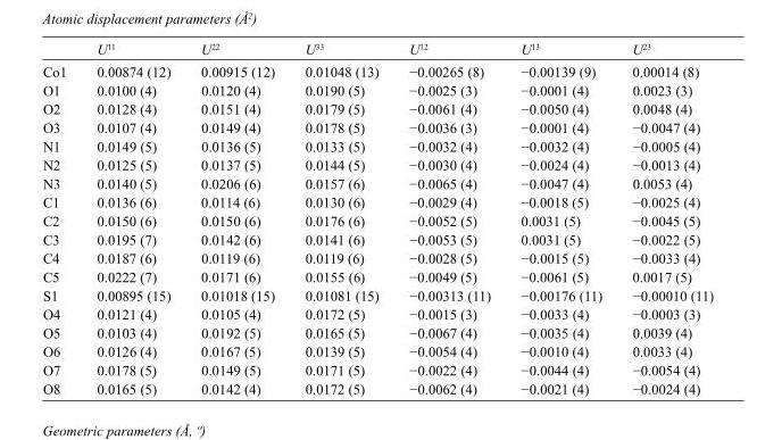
<table><thead><tr><td></td><td>U<sup>11</sup></td><td>U<sup>22</sup></td><td>U<sup>33</sup></td><td>U<sup>12</sup></td><td>U<sup>13</sup></td><td>U<sup>23</sup></td></tr></thead><tbody><tr><td>Co1</td><td>0.00874 (12)</td><td>0.00915 (12)</td><td>0.01048 (13)</td><td>−0.00265 (8)</td><td>−0.00139 (9)</td><td>0.00014 (8)</td></tr><tr><td>O1</td><td>0.0100 (4)</td><td>0.0120 (4)</td><td>0.0190 (5)</td><td>−0.0025 (3)</td><td>−0.0001 (4)</td><td>0.0023 (3)</td></tr><tr><td>O2</td><td>0.0128 (4)</td><td>0.0151 (4)</td><td>0.0179 (5)</td><td>−0.0061 (4)</td><td>−0.0050 (4)</td><td>0.0048 (4)</td></tr><tr><td>O3</td><td>0.0107 (4)</td><td>0.0149 (4)</td><td>0.0178 (5)</td><td>−0.0036 (3)</td><td>−0.0001 (4)</td><td>−0.0047 (4)</td></tr><tr><td>N1</td><td>0.0149 (5)</td><td>0.0136 (5)</td><td>0.0133 (5)</td><td>−0.0032 (4)</td><td>−0.0032 (4)</td><td>−0.0005 (4)</td></tr><tr><td>N2</td><td>0.0125 (5)</td><td>0.0137 (5)</td><td>0.0144 (5)</td><td>−0.0030 (4)</td><td>−0.0024 (4)</td><td>−0.0013 (4)</td></tr><tr><td>N3</td><td>0.0140 (5)</td><td>0.0206 (6)</td><td>0.0157 (6)</td><td>−0.0065 (4)</td><td>−0.0047 (4)</td><td>0.0053 (4)</td></tr><tr><td>C1</td><td>0.0136 (6)</td><td>0.0114 (6)</td><td>0.0130 (6)</td><td>−0.0029 (4)</td><td>−0.0018 (5)</td><td>−0.0025 (4)</td></tr><tr><td>C2</td><td>0.0150 (6)</td><td>0.0150 (6)</td><td>0.0176 (6)</td><td>−0.0052 (5)</td><td>0.0031 (5)</td><td>−0.0045 (5)</td></tr><tr><td>C3</td><td>0.0195 (7)</td><td>0.0142 (6)</td><td>0.0141 (6)</td><td>−0.0053 (5)</td><td>0.0031 (5)</td><td>−0.0022 (5)</td></tr><tr><td>C4</td><td>0.0187 (6)</td><td>0.0119 (6)</td><td>0.0119 (6)</td><td>−0.0028 (5)</td><td>−0.0015 (5)</td><td>−0.0033 (4)</td></tr><tr><td>C5</td><td>0.0222 (7)</td><td>0.0171 (6)</td><td>0.0155 (6)</td><td>−0.0049 (5)</td><td>−0.0061 (5)</td><td>0.0017 (5)</td></tr><tr><td>S1</td><td>0.00895 (15)</td><td>0.01018 (15)</td><td>0.01081 (15)</td><td>−0.00313 (11)</td><td>−0.00176 (11)</td><td>−0.00010 (11)</td></tr><tr><td>O4</td><td>0.0121 (4)</td><td>0.0105 (4)</td><td>0.0172 (5)</td><td>−0.0015 (3)</td><td>−0.0033 (4)</td><td>−0.0003 (3)</td></tr><tr><td>O5</td><td>0.0103 (4)</td><td>0.0192 (5)</td><td>0.0165 (5)</td><td>−0.0067 (4)</td><td>−0.0035 (4)</td><td>0.0039 (4)</td></tr><tr><td>O6</td><td>0.0126 (4)</td><td>0.0167 (5)</td><td>0.0139 (5)</td><td>−0.0054 (4)</td><td>−0.0010 (4)</td><td>0.0033 (4)</td></tr><tr><td>O7</td><td>0.0178 (5)</td><td>0.0149 (5)</td><td>0.0171 (5)</td><td>−0.0022 (4)</td><td>−0.0044 (4)</td><td>−0.0054 (4)</td></tr><tr><td>O8</td><td>0.0165 (5)</td><td>0.0142 (4)</td><td>0.0172 (5)</td><td>−0.0062 (4)</td><td>−0.0021 (4)</td><td>−0.0024 (4)</td></tr></tbody></table>